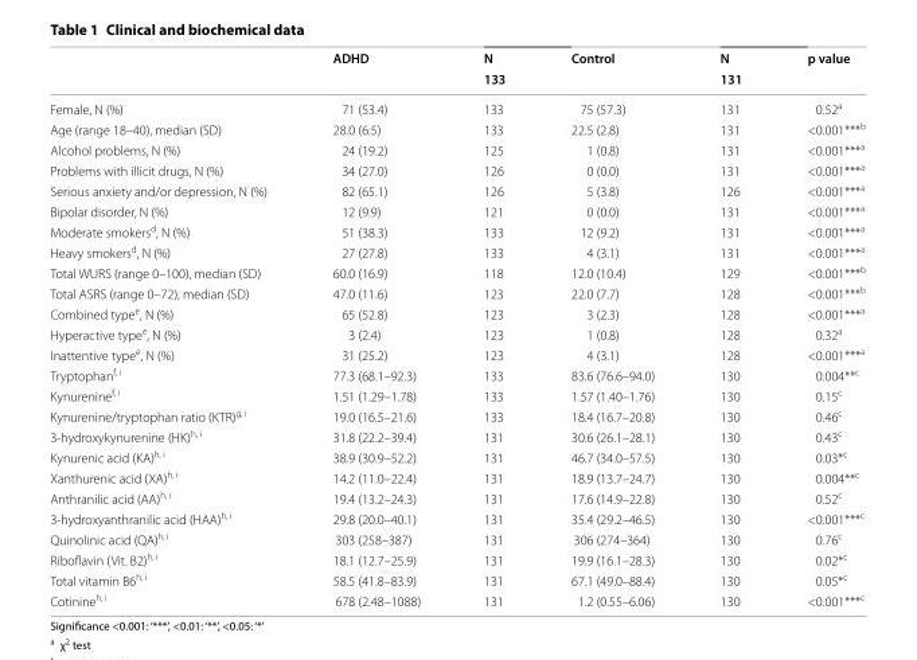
<table><thead><tr><td rowspan="2"></td><td rowspan="2">ADHD</td><td rowspan="2">N 133</td><td rowspan="2">Control</td><td rowspan="2">N 131</td><td rowspan="2">p value</td></tr><tr></tr></thead><tbody><tr><td>Female, N (%)</td><td>71 (53.4)</td><td>133</td><td>75 (57.3)</td><td>131</td><td>0.52<sup>a</sup></td></tr><tr><td>Age (range 18–40), median (SD)</td><td>28.0 (6.5)</td><td>133</td><td>22.5 (2.8)</td><td>131</td><td>&lt;0.001***<sup>b</sup></td></tr><tr><td>Alcohol problems, N (%)</td><td>24 (19.2)</td><td>125</td><td>1 (0.8)</td><td>131</td><td>&lt;0.001***<sup>a</sup></td></tr><tr><td>Problems with illicit drugs, N (%)</td><td>34 (27.0)</td><td>126</td><td>0 (0.0)</td><td>131</td><td>&lt;0.001***<sup>a</sup></td></tr><tr><td>Serious anxiety and/or depression, N (%)</td><td>82 (65.1)</td><td>126</td><td>5 (3.8)</td><td>126</td><td>&lt;0.001***<sup>a</sup></td></tr><tr><td>Bipolar disorder, N (%)</td><td>12 (9.9)</td><td>121</td><td>0 (0.0)</td><td>131</td><td>&lt;0.001***<sup>a</sup></td></tr><tr><td>Moderate smokers<sup>d</sup>, N (%)</td><td>51 (38.3)</td><td>133</td><td>12 (9.2)</td><td>131</td><td>&lt;0.001***<sup>a</sup></td></tr><tr><td>Heavy smokers<sup>d</sup>, N (%)</td><td>27 (27.8)</td><td>133</td><td>4 (3.1)</td><td>131</td><td>&lt;0.001***<sup>a</sup></td></tr><tr><td>Total WURS (range 0–100), median (SD)</td><td>60.0 (16.9)</td><td>118</td><td>12.0 (10.4)</td><td>129</td><td>&lt;0.001***<sup>b</sup></td></tr><tr><td>Total ASRS (range 0–72), median (SD)</td><td>47.0 (11.6)</td><td>123</td><td>22.0 (7.7)</td><td>128</td><td>&lt;0.001***<sup>b</sup></td></tr><tr><td>Combined type<sup>e</sup>, N (%)</td><td>65 (52.8)</td><td>123</td><td>3 (2.3)</td><td>128</td><td>&lt;0.001***<sup>a</sup></td></tr><tr><td>Hyperactive type<sup>e</sup>, N (%)</td><td>3 (2.4)</td><td>123</td><td>1 (0.8)</td><td>128</td><td>0.32<sup>a</sup></td></tr><tr><td>Inattentive type<sup>e</sup>, N (%)</td><td>31 (25.2)</td><td>123</td><td>4 (3.1)</td><td>128</td><td>&lt;0.001***<sup>a</sup></td></tr><tr><td>Tryptophan<sup>f, i</sup></td><td>77.3 (68.1–92.3)</td><td>133</td><td>83.6 (76.6–94.0)</td><td>130</td><td>0.004**<sup>c</sup></td></tr><tr><td>Kynurenine<sup>f, i</sup></td><td>1.51 (1.29–1.78)</td><td>133</td><td>1.57 (1.40–1.76)</td><td>130</td><td>0.15<sup>c</sup></td></tr><tr><td>Kynurenine/tryptophan ratio (KTR)<sup>g, i</sup></td><td>19.0 (16.5–21.6)</td><td>133</td><td>18.4 (16.7–20.8)</td><td>130</td><td>0.46<sup>c</sup></td></tr><tr><td>3‑hydroxykynurenine (HK)<sup>h, i</sup></td><td>31.8 (22.2–39.4)</td><td>131</td><td>30.6 (26.1–28.1)</td><td>130</td><td>0.43<sup>c</sup></td></tr><tr><td>Kynurenic acid (KA)<sup>h, i</sup></td><td>38.9 (30.9–52.2)</td><td>131</td><td>46.7 (34.0–57.5)</td><td>130</td><td>0.03*<sup>c</sup></td></tr><tr><td>Xanthurenic acid (XA)<sup>h, i</sup></td><td>14.2 (11.0–22.4)</td><td>131</td><td>18.9 (13.7–24.7)</td><td>130</td><td>0.004**<sup>c</sup></td></tr><tr><td>Anthranilic acid (AA)<sup>h, i</sup></td><td>19.4 (13.2–24.3)</td><td>131</td><td>17.6 (14.9–22.8)</td><td>130</td><td>0.52<sup>c</sup></td></tr><tr><td>3‑hydroxyanthranilic acid (HAA)<sup>h, i</sup></td><td>29.8 (20.0–40.1)</td><td>131</td><td>35.4 (29.2–46.5)</td><td>130</td><td>&lt;0.001***<sup>c</sup></td></tr><tr><td>Quinolinic acid (QA)<sup>h, i</sup></td><td>303 (258–387)</td><td>131</td><td>306 (274–364)</td><td>130</td><td>0.76<sup>c</sup></td></tr><tr><td>Riboflavin (Vit. B2)<sup>h, i</sup></td><td>18.1 (12.7–25.9)</td><td>131</td><td>19.9 (16.1–28.3)</td><td>130</td><td>0.02*<sup>c</sup></td></tr><tr><td>Total vitamin B6<sup>h, i</sup></td><td>58.5 (41.8–83.9)</td><td>131</td><td>67.1 (49.0–88.4)</td><td>130</td><td>0.05*<sup>c</sup></td></tr><tr><td>Cotinine<sup>h, i</sup></td><td>678 (2.48–1088)</td><td>131</td><td>1.2 (0.55–6.06)</td><td>130</td><td>&lt;0.001***<sup>c</sup></td></tr></tbody></table>